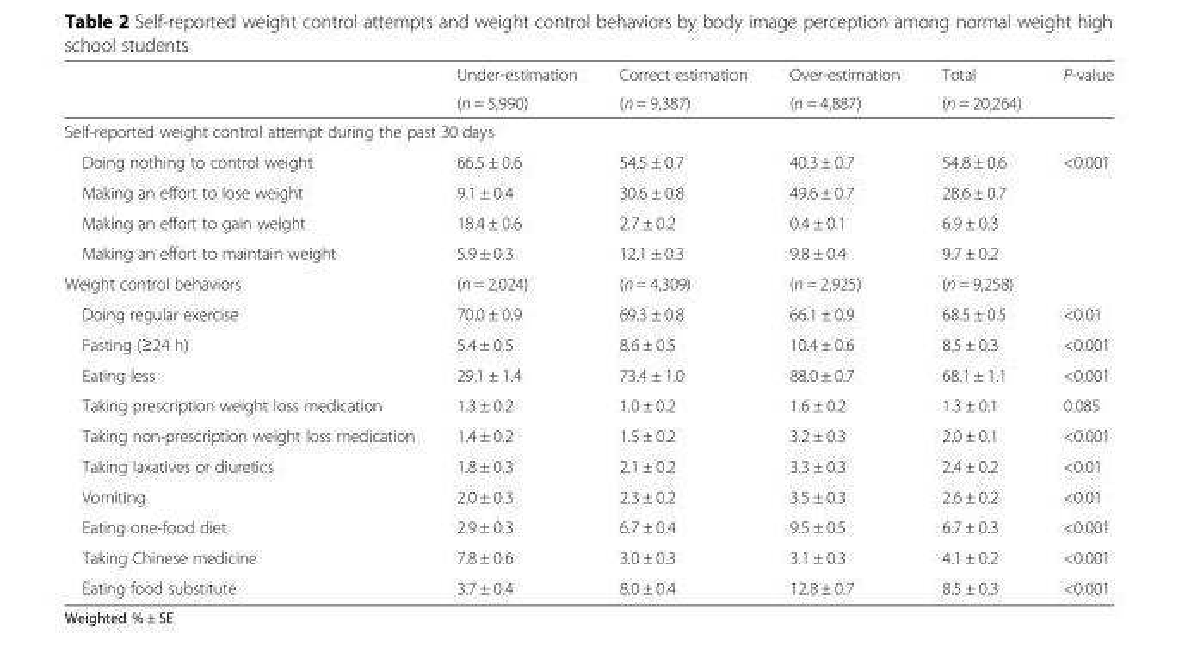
<table><thead><tr><td rowspan="2"></td><td rowspan="2">Under-estimation (n = 5,990)</td><td rowspan="2">Correct estimation (n = 9,387)</td><td rowspan="2">Over-estimation (n = 4,887)</td><td rowspan="2">Total (n = 20,264)</td><td rowspan="2">P-value</td></tr><tr></tr></thead><tbody><tr><td colspan="6">Self-reported weight control attempt during the past 30 days</td></tr><tr><td>Doing nothing to control weight</td><td>66.5 ± 0.6</td><td>54.5 ± 0.7</td><td>40.3 ± 0.7</td><td>54.8 ± 0.6</td><td>&lt;0.001</td></tr><tr><td>Making an effort to lose weight</td><td>9.1 ± 0.4</td><td>30.6 ± 0.8</td><td>49.6 ± 0.7</td><td>28.6 ± 0.7</td><td></td></tr><tr><td>Making an effort to gain weight</td><td>18.4 ± 0.6</td><td>2.7 ± 0.2</td><td>0.4 ± 0.1</td><td>6.9 ± 0.3</td><td></td></tr><tr><td>Making an effort to maintain weight</td><td>5.9 ± 0.3</td><td>12.1 ± 0.3</td><td>9.8 ± 0.4</td><td>9.7 ± 0.2</td><td></td></tr><tr><td>Weight control behaviors</td><td>(n = 2,024)</td><td>(n = 4,309)</td><td>(n = 2,925)</td><td>(n = 9,258)</td><td></td></tr><tr><td>Doing regular exercise</td><td>70.0 ± 0.9</td><td>69.3 ± 0.8</td><td>66.1 ± 0.9</td><td>68.5 ± 0.5</td><td>&lt;0.01</td></tr><tr><td>Fasting (≥24 h)</td><td>5.4 ± 0.5</td><td>8.6 ± 0.5</td><td>10.4 ± 0.6</td><td>8.5 ± 0.3</td><td>&lt;0.001</td></tr><tr><td>Eating less</td><td>29.1 ± 1.4</td><td>73.4 ± 1.0</td><td>88.0 ± 0.7</td><td>68.1 ± 1.1</td><td>&lt;0.001</td></tr><tr><td>Taking prescription weight loss medication</td><td>1.3 ± 0.2</td><td>1.0 ± 0.2</td><td>1.6 ± 0.2</td><td>1.3 ± 0.1</td><td>0.085</td></tr><tr><td>Taking non-prescription weight loss medication</td><td>1.4 ± 0.2</td><td>1.5 ± 0.2</td><td>3.2 ± 0.3</td><td>2.0 ± 0.1</td><td>&lt;0.001</td></tr><tr><td>Taking laxatives or diuretics</td><td>1.8 ± 0.3</td><td>2.1 ± 0.2</td><td>3.3 ± 0.3</td><td>2.4 ± 0.2</td><td>&lt;0.01</td></tr><tr><td>Vomiting</td><td>2.0 ± 0.3</td><td>2.3 ± 0.2</td><td>3.5 ± 0.3</td><td>2.6 ± 0.2</td><td>&lt;0.01</td></tr><tr><td>Eating one-food diet</td><td>2.9 ± 0.3</td><td>6.7 ± 0.4</td><td>9.5 ± 0.5</td><td>6.7 ± 0.3</td><td>&lt;0.001</td></tr><tr><td>Taking Chinese medicine</td><td>7.8 ± 0.6</td><td>3.0 ± 0.3</td><td>3.1 ± 0.3</td><td>4.1 ± 0.2</td><td>&lt;0.001</td></tr><tr><td>Eating food substitute</td><td>3.7 ± 0.4</td><td>8.0 ± 0.4</td><td>12.8 ± 0.7</td><td>8.5 ± 0.3</td><td>&lt;0.001</td></tr></tbody></table>